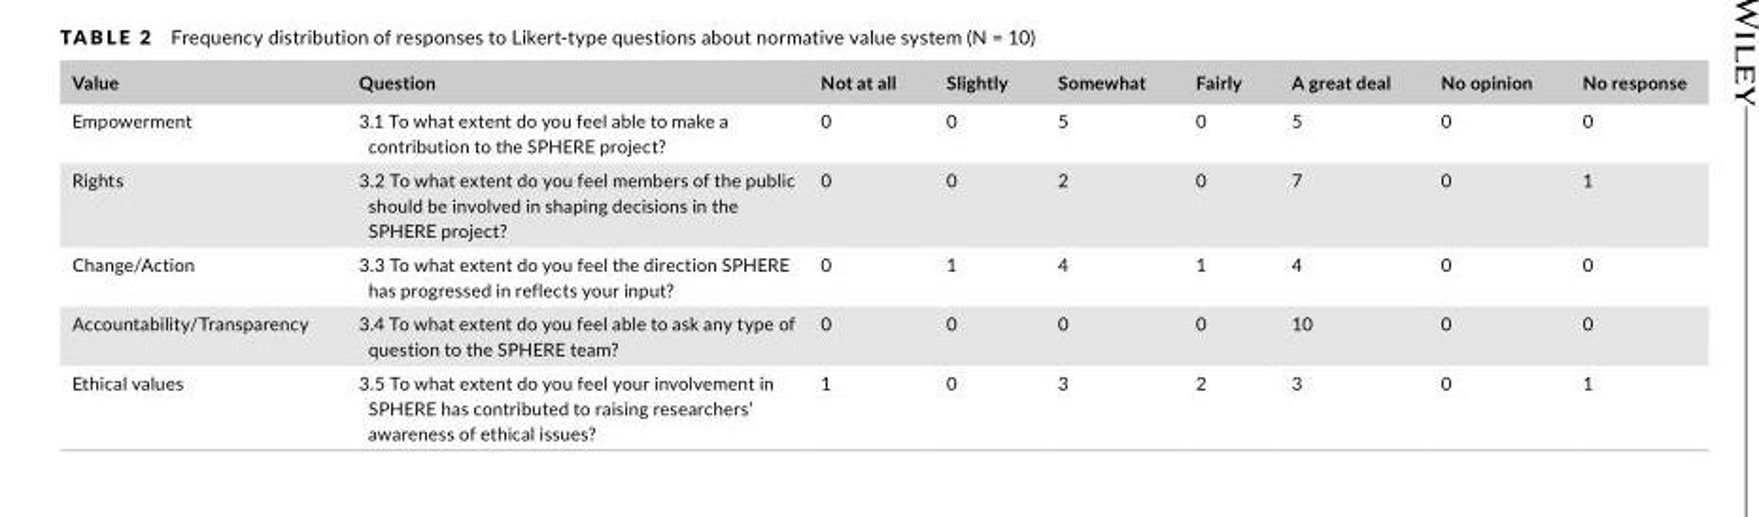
<table><thead><tr><td>Value</td><td>Question</td><td>Not at all</td><td>Slightly</td><td>Somewhat</td><td>Fairly</td><td>A great deal</td><td>No opinion</td><td>No response</td></tr></thead><tbody><tr><td>Empowerment</td><td>3.1 To what extent do you feel able to make a contribution to the SPHERE project?</td><td>0</td><td>0</td><td>5</td><td>0</td><td>5</td><td>0</td><td>0</td></tr><tr><td>Rights</td><td>3.2 To what extent do you feel members of the public should be involved in shaping decisions in the SPHERE project?</td><td>0</td><td>0</td><td>2</td><td>0</td><td>7</td><td>0</td><td>1</td></tr><tr><td>Change/Action</td><td>3.3 To what extent do you feel the direction SPHERE has progressed in reflects your input?</td><td>0</td><td>1</td><td>4</td><td>1</td><td>4</td><td>0</td><td>0</td></tr><tr><td>Accountability/Transparency</td><td>3.4 To what extent do you feel able to ask any type of question to the SPHERE team?</td><td>0</td><td>0</td><td>0</td><td>0</td><td>10</td><td>0</td><td>0</td></tr><tr><td>Ethical values</td><td>3.5 To what extent do you feel your involvement in SPHERE has contributed to raising researchers’ awareness of ethical issues?</td><td>1</td><td>0</td><td>3</td><td>2</td><td>3</td><td>0</td><td>1</td></tr></tbody></table>